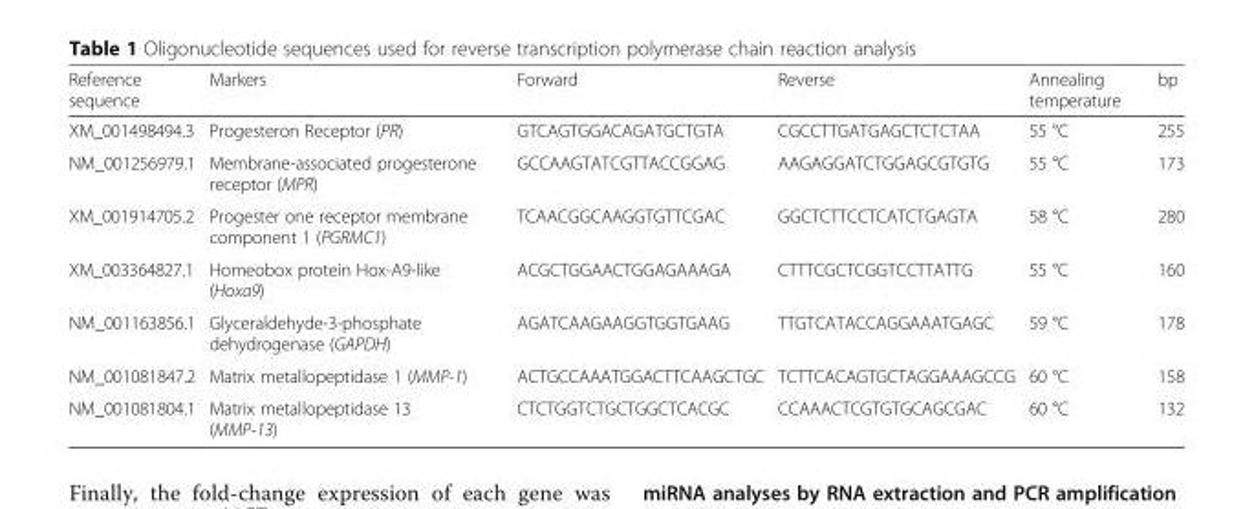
<table><thead><tr><td>Reference sequence</td><td>Markers</td><td>Forward</td><td>Reverse</td><td>Annealing temperature</td><td>bp</td></tr></thead><tbody><tr><td>XM_001498494.3</td><td>Progesteron Receptor (PR)</td><td>GTCAGTGGACAGATGCTGTA</td><td>CGCCTTGATGAGCTCTCTAA</td><td>55 °C</td><td>255</td></tr><tr><td>NM_001256979.1</td><td>Membrane-associated progesterone receptor (MPR)</td><td>GCCAAGTATCGTTACCGGAG</td><td>AAGAGGATCTGGAGCGTGTG</td><td>55 °C</td><td>173</td></tr><tr><td>XM_001914705.2</td><td>Progester one receptor membrane component 1 (PGRMC1)</td><td>TCAACGGCAAGGTGTTCGAC</td><td>GGCTCTTCCTCATCTGAGTA</td><td>58 °C</td><td>280</td></tr><tr><td>XM_003364827.1</td><td>Homeobox protein Hox-A9-like (Hoxa9)</td><td>ACGCTGGAACTGGAGAAAGA</td><td>CTTTCGCTCGGTCCTTATTG</td><td>55 °C</td><td>160</td></tr><tr><td>NM_001163856.1</td><td>Glyceraldehyde-3-phosphate dehydrogenase (GAPDH)</td><td>AGATCAAGAAGGTGGTGAAG</td><td>TTGTCATACCAGGAAATGAGC</td><td>59 °C</td><td>178</td></tr><tr><td>NM_001081847.2</td><td>Matrix metallopeptidase 1 (MMP-1)</td><td>ACTGCCAAATGGACTTCAAGCTGC</td><td>TCTTCACAGTGCTAGGAAAGCCG</td><td>60 °C</td><td>158</td></tr><tr><td>NM_001081804.1</td><td>Matrix metallopeptidase 13 (MMP-13)</td><td>CTCTGGTCTGCTGGCTCACGC</td><td>CCAAACTCGTGTGCAGCGAC</td><td>60 °C</td><td>132</td></tr></tbody></table>